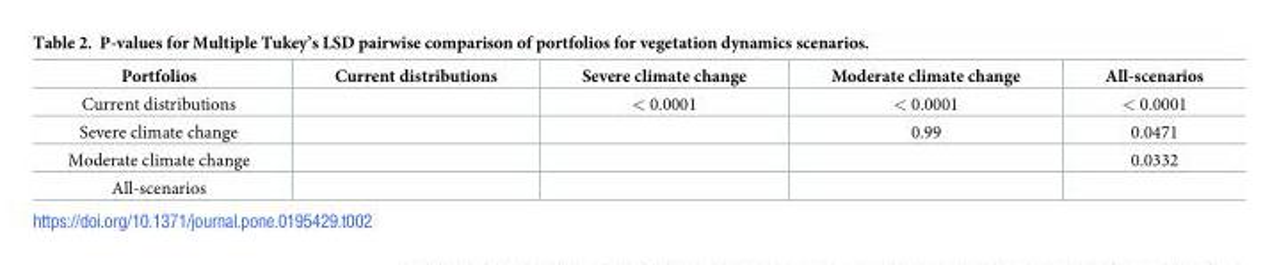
<table><thead><tr><td>Portfolios</td><td>Current distributions</td><td>Severe climate change</td><td>Moderate climate change</td><td>All-scenarios</td></tr></thead><tbody><tr><td>Current distributions</td><td></td><td>&lt; 0.0001</td><td>&lt; 0.0001</td><td>&lt; 0.0001</td></tr><tr><td>Severe climate change</td><td></td><td></td><td>0.99</td><td>0.0471</td></tr><tr><td>Moderate climate change</td><td></td><td></td><td></td><td>0.0332</td></tr><tr><td>All-scenarios</td><td></td><td></td><td></td><td></td></tr></tbody></table>